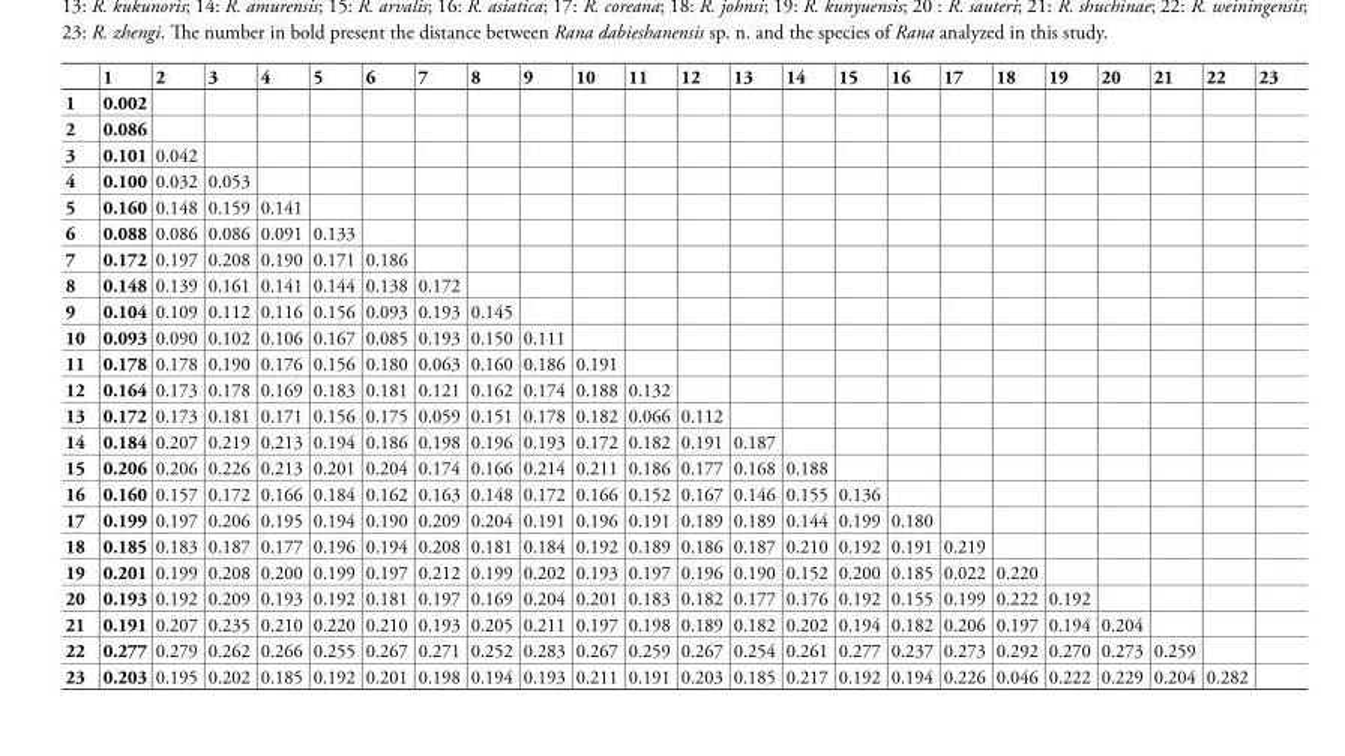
<table><thead><tr><td></td><td>1</td><td>2</td><td>3</td><td>4</td><td>5</td><td>6</td><td>7</td><td>8</td><td>9</td><td>10</td><td>11</td><td>12</td><td>13</td><td>14</td><td>15</td><td>16</td><td>17</td><td>18</td><td>19</td><td>20</td><td>21</td><td>22</td><td>23</td></tr></thead><tbody><tr><td>1</td><td>0.002</td><td></td><td></td><td></td><td></td><td></td><td></td><td></td><td></td><td></td><td></td><td></td><td></td><td></td><td></td><td></td><td></td><td></td><td></td><td></td><td></td><td></td><td></td></tr><tr><td>2</td><td>0.086</td><td></td><td></td><td></td><td></td><td></td><td></td><td></td><td></td><td></td><td></td><td></td><td></td><td></td><td></td><td></td><td></td><td></td><td></td><td></td><td></td><td></td><td></td></tr><tr><td>3</td><td>0.101</td><td>0.042</td><td></td><td></td><td></td><td></td><td></td><td></td><td></td><td></td><td></td><td></td><td></td><td></td><td></td><td></td><td></td><td></td><td></td><td></td><td></td><td></td><td></td></tr><tr><td>4</td><td>0.100</td><td>0.032</td><td>0.053</td><td></td><td></td><td></td><td></td><td></td><td></td><td></td><td></td><td></td><td></td><td></td><td></td><td></td><td></td><td></td><td></td><td></td><td></td><td></td><td></td></tr><tr><td>5</td><td>0.160</td><td>0.148</td><td>0.159</td><td>0.141</td><td></td><td></td><td></td><td></td><td></td><td></td><td></td><td></td><td></td><td></td><td></td><td></td><td></td><td></td><td></td><td></td><td></td><td></td><td></td></tr><tr><td>6</td><td>0.088</td><td>0.086</td><td>0.086</td><td>0.091</td><td>0.133</td><td></td><td></td><td></td><td></td><td></td><td></td><td></td><td></td><td></td><td></td><td></td><td></td><td></td><td></td><td></td><td></td><td></td><td></td></tr><tr><td>7</td><td>0.172</td><td>0.197</td><td>0.208</td><td>0.190</td><td>0.171</td><td>0.186</td><td></td><td></td><td></td><td></td><td></td><td></td><td></td><td></td><td></td><td></td><td></td><td></td><td></td><td></td><td></td><td></td><td></td></tr><tr><td>8</td><td>0.148</td><td>0.139</td><td>0.161</td><td>0.141</td><td>0.144</td><td>0.138</td><td>0.172</td><td></td><td></td><td></td><td></td><td></td><td></td><td></td><td></td><td></td><td></td><td></td><td></td><td></td><td></td><td></td><td></td></tr><tr><td>9</td><td>0.104</td><td>0.109</td><td>0.112</td><td>0.116</td><td>0.156</td><td>0.093</td><td>0.193</td><td>0.145</td><td></td><td></td><td></td><td></td><td></td><td></td><td></td><td></td><td></td><td></td><td></td><td></td><td></td><td></td><td></td></tr><tr><td>10</td><td>0.093</td><td>0.090</td><td>0.102</td><td>0.106</td><td>0.167</td><td>0.085</td><td>0.193</td><td>0.150</td><td>0.111</td><td></td><td></td><td></td><td></td><td></td><td></td><td></td><td></td><td></td><td></td><td></td><td></td><td></td><td></td></tr><tr><td>11</td><td>0.178</td><td>0.178</td><td>0.190</td><td>0.176</td><td>0.156</td><td>0.180</td><td>0.063</td><td>0.160</td><td>0.186</td><td>0.191</td><td></td><td></td><td></td><td></td><td></td><td></td><td></td><td></td><td></td><td></td><td></td><td></td><td></td></tr><tr><td>12</td><td>0.164</td><td>0.173</td><td>0.178</td><td>0.169</td><td>0.183</td><td>0.181</td><td>0.121</td><td>0.162</td><td>0.174</td><td>0.188</td><td>0.132</td><td></td><td></td><td></td><td></td><td></td><td></td><td></td><td></td><td></td><td></td><td></td><td></td></tr><tr><td>13</td><td>0.172</td><td>0.173</td><td>0.181</td><td>0.171</td><td>0.156</td><td>0.175</td><td>0.059</td><td>0.151</td><td>0.178</td><td>0.182</td><td>0.066</td><td>0.112</td><td></td><td></td><td></td><td></td><td></td><td></td><td></td><td></td><td></td><td></td><td></td></tr><tr><td>14</td><td>0.184</td><td>0.207</td><td>0.219</td><td>0.213</td><td>0.194</td><td>0.186</td><td>0.198</td><td>0.196</td><td>0.193</td><td>0.172</td><td>0.182</td><td>0.191</td><td>0.187</td><td></td><td></td><td></td><td></td><td></td><td></td><td></td><td></td><td></td><td></td></tr><tr><td>15</td><td>0.206</td><td>0.206</td><td>0.226</td><td>0.213</td><td>0.201</td><td>0.204</td><td>0.174</td><td>0.166</td><td>0.214</td><td>0.211</td><td>0.186</td><td>0.177</td><td>0.168</td><td>0.188</td><td></td><td></td><td></td><td></td><td></td><td></td><td></td><td></td><td></td></tr><tr><td>16</td><td>0.160</td><td>0.157</td><td>0.172</td><td>0.166</td><td>0.184</td><td>0.162</td><td>0.163</td><td>0.148</td><td>0.172</td><td>0.166</td><td>0.152</td><td>0.167</td><td>0.146</td><td>0.155</td><td>0.136</td><td></td><td></td><td></td><td></td><td></td><td></td><td></td><td></td></tr><tr><td>17</td><td>0.199</td><td>0.197</td><td>0.206</td><td>0.195</td><td>0.194</td><td>0.190</td><td>0.209</td><td>0.204</td><td>0.191</td><td>0.196</td><td>0.191</td><td>0.189</td><td>0.189</td><td>0.144</td><td>0.199</td><td>0.180</td><td></td><td></td><td></td><td></td><td></td><td></td><td></td></tr><tr><td>18</td><td>0.185</td><td>0.183</td><td>0.187</td><td>0.177</td><td>0.196</td><td>0.194</td><td>0.208</td><td>0.181</td><td>0.184</td><td>0.192</td><td>0.189</td><td>0.186</td><td>0.187</td><td>0.210</td><td>0.192</td><td>0.191</td><td>0.219</td><td></td><td></td><td></td><td></td><td></td><td></td></tr><tr><td>19</td><td>0.201</td><td>0.199</td><td>0.208</td><td>0.200</td><td>0.199</td><td>0.197</td><td>0.212</td><td>0.199</td><td>0.202</td><td>0.193</td><td>0.197</td><td>0.196</td><td>0.190</td><td>0.152</td><td>0.200</td><td>0.185</td><td>0.022</td><td>0.220</td><td></td><td></td><td></td><td></td><td></td></tr><tr><td>20</td><td>0.193</td><td>0.192</td><td>0.209</td><td>0.193</td><td>0.192</td><td>0.181</td><td>0.197</td><td>0.169</td><td>0.204</td><td>0.201</td><td>0.183</td><td>0.182</td><td>0.177</td><td>0.176</td><td>0.192</td><td>0.155</td><td>0.199</td><td>0.222</td><td>0.192</td><td></td><td></td><td></td><td></td></tr><tr><td>21</td><td>0.191</td><td>0.207</td><td>0.235</td><td>0.210</td><td>0.220</td><td>0.210</td><td>0.193</td><td>0.205</td><td>0.211</td><td>0.197</td><td>0.198</td><td>0.189</td><td>0.182</td><td>0.202</td><td>0.194</td><td>0.182</td><td>0.206</td><td>0.197</td><td>0.194</td><td>0.204</td><td></td><td></td><td></td></tr><tr><td>22</td><td>0.277</td><td>0.279</td><td>0.262</td><td>0.266</td><td>0.255</td><td>0.267</td><td>0.271</td><td>0.252</td><td>0.283</td><td>0.267</td><td>0.259</td><td>0.267</td><td>0.254</td><td>0.261</td><td>0.277</td><td>0.237</td><td>0.273</td><td>0.292</td><td>0.270</td><td>0.273</td><td>0.259</td><td></td><td></td></tr><tr><td>23</td><td>0.203</td><td>0.195</td><td>0.202</td><td>0.185</td><td>0.192</td><td>0.201</td><td>0.198</td><td>0.194</td><td>0.193</td><td>0.211</td><td>0.191</td><td>0.203</td><td>0.185</td><td>0.217</td><td>0.192</td><td>0.194</td><td>0.226</td><td>0.046</td><td>0.222</td><td>0.229</td><td>0.204</td><td>0.282</td><td></td></tr></tbody></table>